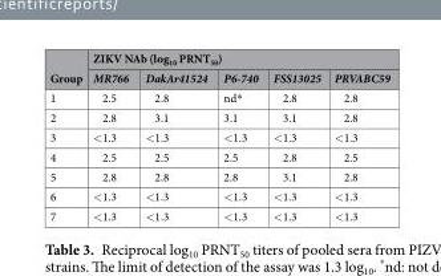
<table><thead><tr><td rowspan="2">Group</td><td colspan="5">ZIKV NAb (log<sub>10</sub> PRNT<sub>50</sub>)</td></tr><tr><td>MR766</td><td>DakAr41524</td><td>P6-740</td><td>FSS13025</td><td>PRVABC59</td></tr></thead><tbody><tr><td>1</td><td>2.5</td><td>2.8</td><td>nd*</td><td>2.8</td><td>2.8</td></tr><tr><td>2</td><td>2.8</td><td>3.1</td><td>3.1</td><td>3.1</td><td>2.8</td></tr><tr><td>3</td><td>&lt;1.3</td><td>&lt;1.3</td><td>&lt;1.3</td><td>&lt;1.3</td><td>&lt;1.3</td></tr><tr><td>4</td><td>2.5</td><td>2.5</td><td>2.5</td><td>2.8</td><td>2.5</td></tr><tr><td>5</td><td>2.8</td><td>2.8</td><td>2.8</td><td>3.1</td><td>2.8</td></tr><tr><td>6</td><td>&lt;1.3</td><td>&lt;1.3</td><td>&lt;1.3</td><td>&lt;1.3</td><td>&lt;1.3</td></tr><tr><td>7</td><td>&lt;1.3</td><td>&lt;1.3</td><td>&lt;1.3</td><td>&lt;1.3</td><td>&lt;1.3</td></tr></tbody></table>